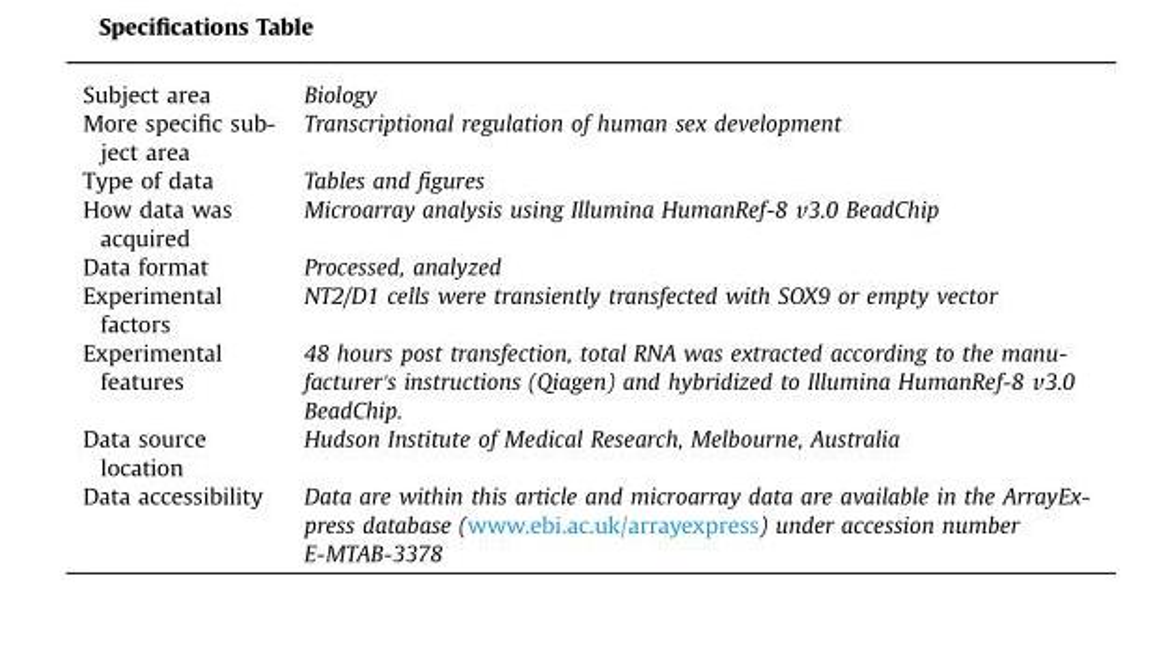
<table><tbody><tr><td>Subject area</td><td>Biology</td></tr><tr><td>More specific sub- ject area</td><td>Transcriptional regulation of human sex development</td></tr><tr><td>Type of data</td><td>Tables and figures</td></tr><tr><td>How data was acquired</td><td>Microarray analysis using Illumina HumanRef-8 v3.0 BeadChip</td></tr><tr><td>Data format</td><td>Processed, analyzed</td></tr><tr><td>Experimental factors</td><td>NT2/D1 cells were transiently transfected with SOX9 or empty vector</td></tr><tr><td>Experimental features</td><td>48 hours post transfection, total RNA was extracted according to the manu- facturer&#x27;s instructions (Qiagen) and hybridized to Illumina HumanRef-8 v3.0 BeadChip.</td></tr><tr><td>Data source location</td><td>Hudson Institute of Medical Research, Melbourne, Australia</td></tr><tr><td>Data accessibility</td><td>Data are within this article and microarray data are available in the ArrayEx- press database (www.ebi.ac.uk/arrayexpress) under accession number E-MTAB-3378</td></tr></tbody></table>